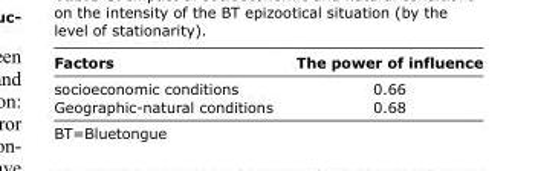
<table><thead><tr><td>Factors</td><td>The power of influence</td></tr></thead><tbody><tr><td>socioeconomic conditions</td><td>0.66</td></tr><tr><td>Geographic-natural conditions</td><td>0.68</td></tr></tbody></table>